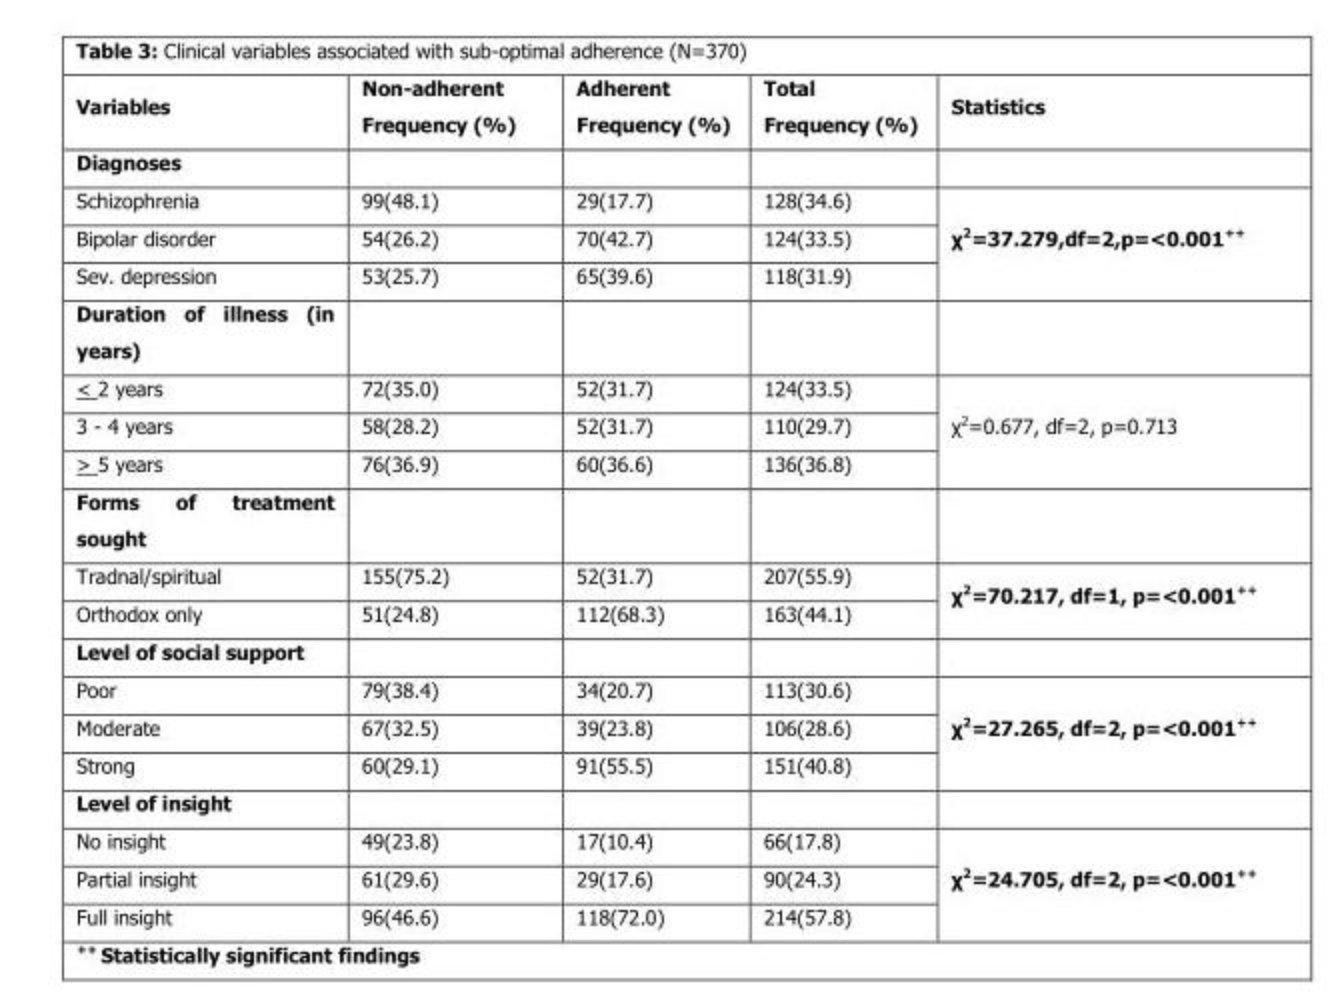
<table><thead><tr><td>Variables</td><td>Non-adherent Frequency (%)</td><td>Adherent Frequency (%)</td><td>Total Frequency (%)</td><td>Statistics</td></tr></thead><tbody><tr><td colspan="5">Diagnoses</td></tr><tr><td>Schizophrenia</td><td>99(48.1)</td><td>29(17.7)</td><td>128(34.6)</td><td rowspan="3">χ<sup>2</sup>=37.279,df=2,p=&lt;0.001++</td></tr><tr><td>Bipolar disorder</td><td>54(26.2)</td><td>70(42.7)</td><td>124(33.5)</td></tr><tr><td>Sev. depression</td><td>53(25.7)</td><td>65(39.6)</td><td>118(31.9)</td></tr><tr><td colspan="5">Duration of illness (in years)</td></tr><tr><td>&lt; 2 years</td><td>72(35.0)</td><td>52(31.7)</td><td>124(33.5)</td><td rowspan="3">χ<sup>2</sup>=0.677, df=2, p=0.713</td></tr><tr><td>3 - 4 years</td><td>58(28.2)</td><td>52(31.7)</td><td>110(29.7)</td></tr><tr><td>&gt; 5 years</td><td>76(36.9)</td><td>60(36.6)</td><td>136(36.8)</td></tr><tr><td colspan="5">Forms of treatment sought</td></tr><tr><td>Tradnal/spiritual</td><td>155(75.2)</td><td>52(31.7)</td><td>207(55.9)</td><td rowspan="2">χ<sup>2</sup>=70.217, df=1, p=&lt;0.001++</td></tr><tr><td>Orthodox only</td><td>51(24.8)</td><td>112(68.3)</td><td>163(44.1)</td></tr><tr><td colspan="5">Level of social support</td></tr><tr><td>Poor</td><td>79(38.4)</td><td>34(20.7)</td><td>113(30.6)</td><td rowspan="3">χ<sup>2</sup>=27.265, df=2, p=&lt;0.001++</td></tr><tr><td>Moderate</td><td>67(32.5)</td><td>39(23.8)</td><td>106(28.6)</td></tr><tr><td>Strong</td><td>60(29.1)</td><td>91(55.5)</td><td>151(40.8)</td></tr><tr><td colspan="5">Level of insight</td></tr><tr><td>No insight</td><td>49(23.8)</td><td>17(10.4)</td><td>66(17.8)</td><td rowspan="3">χ<sup>2</sup>=24.705, df=2, p=&lt;0.001++</td></tr><tr><td>Partial insight</td><td>61(29.6)</td><td>29(17.6)</td><td>90(24.3)</td></tr><tr><td>Full insight</td><td>96(46.6)</td><td>118(72.0)</td><td>214(57.8)</td></tr></tbody></table>